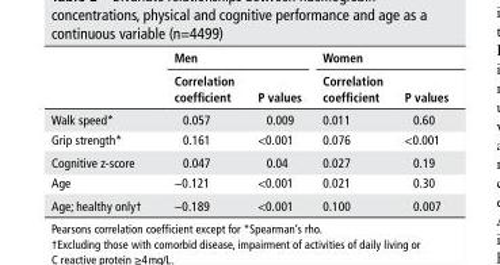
<table><thead><tr><td rowspan="2"></td><td colspan="2">Men</td><td colspan="2">Women</td></tr><tr><td>Correlation coefficient</td><td>P values</td><td>Correlation coefficient</td><td>P values</td></tr></thead><tbody><tr><td>Walk speed*</td><td>0.057</td><td>0.009</td><td>0.011</td><td>0.60</td></tr><tr><td>Grip strength*</td><td>0.161</td><td>&lt;0.001</td><td>0.076</td><td>&lt;0.001</td></tr><tr><td>Cognitive z-score</td><td>0.047</td><td>0.04</td><td>0.027</td><td>0.19</td></tr><tr><td>Age</td><td>−0.121</td><td>&lt;0.001</td><td>0.021</td><td>0.30</td></tr><tr><td>Age; healthy only†</td><td>−0.189</td><td>&lt;0.001</td><td>0.100</td><td>0.007</td></tr></tbody></table>